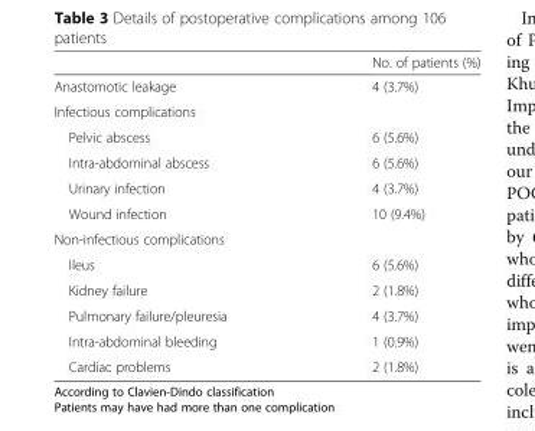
<table><thead><tr><td></td><td>No. of patients (%)</td></tr></thead><tbody><tr><td>Anastomotic leakage</td><td>4 (3.7%)</td></tr><tr><td colspan="2">Infectious complications</td></tr><tr><td>Pelvic abscess</td><td>6 (5.6%)</td></tr><tr><td>Intra-abdominal abscess</td><td>6 (5.6%)</td></tr><tr><td>Urinary infection</td><td>4 (3.7%)</td></tr><tr><td>Wound infection</td><td>10 (9.4%)</td></tr><tr><td colspan="2">Non-infectious complications</td></tr><tr><td>Ileus</td><td>6 (5.6%)</td></tr><tr><td>Kidney failure</td><td>2 (1.8%)</td></tr><tr><td>Pulmonary failure/pleuresia</td><td>4 (3.7%)</td></tr><tr><td>Intra-abdominal bleeding</td><td>1 (0.9%)</td></tr><tr><td>Cardiac problems</td><td>2 (1.8%)</td></tr></tbody></table>